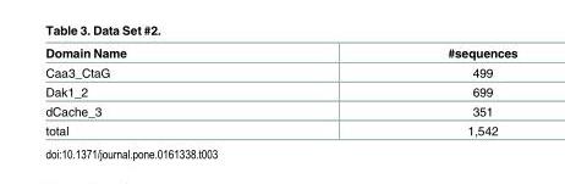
<table><thead><tr><td>Domain Name</td><td>#sequences</td></tr></thead><tbody><tr><td>Caa3_CtaG</td><td>499</td></tr><tr><td>Dak1_2</td><td>699</td></tr><tr><td>dCache_3</td><td>351</td></tr><tr><td>total</td><td>1,542</td></tr></tbody></table>